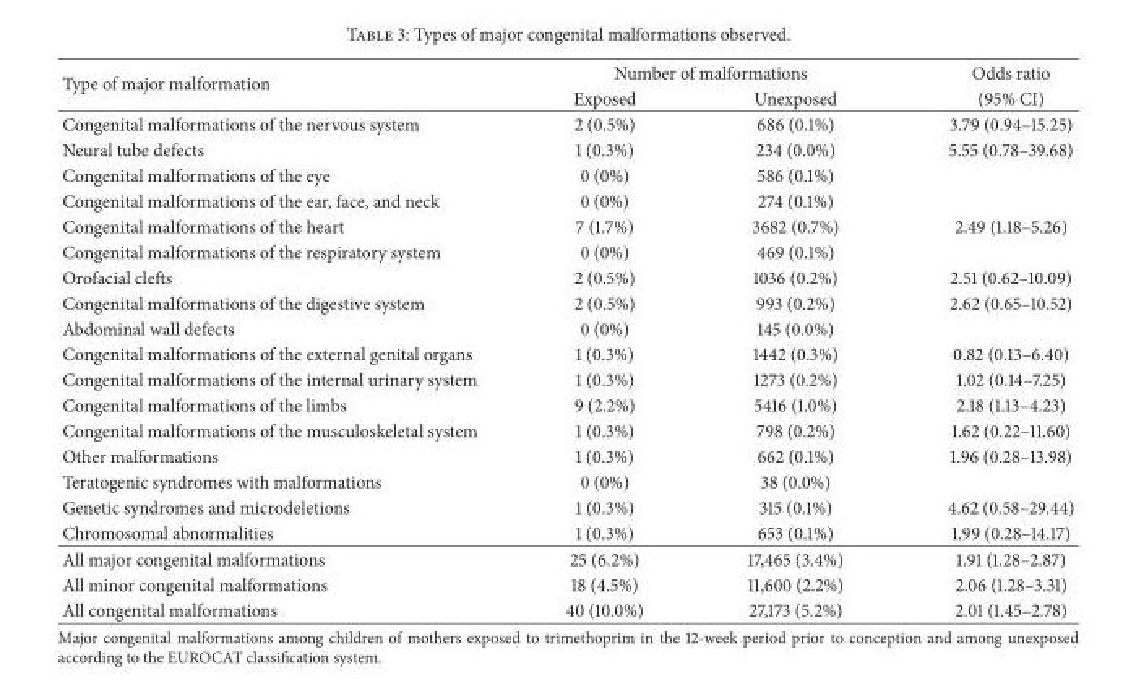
<table><thead><tr><td rowspan="2">Type of major malformation</td><td colspan="2">Number of malformations</td><td rowspan="2">Odds ratio (95% CI)</td></tr><tr><td>Exposed</td><td>Unexposed</td></tr></thead><tbody><tr><td>Congenital malformations of the nervous system</td><td>2 (0.5%)</td><td>686 (0.1%)</td><td>3.79 (0.94–15.25)</td></tr><tr><td>Neural tube defects</td><td>1 (0.3%)</td><td>234 (0.0%)</td><td>5.55 (0.78–39.68)</td></tr><tr><td>Congenital malformations of the eye</td><td>0 (0%)</td><td>586 (0.1%)</td><td></td></tr><tr><td>Congenital malformations of the ear, face, and neck</td><td>0 (0%)</td><td>274 (0.1%)</td><td></td></tr><tr><td>Congenital malformations of the heart</td><td>7 (1.7%)</td><td>3682 (0.7%)</td><td>2.49 (1.18–5.26)</td></tr><tr><td>Congenital malformations of the respiratory system</td><td>0 (0%)</td><td>469 (0.1%)</td><td></td></tr><tr><td>Orofacial clefts</td><td>2 (0.5%)</td><td>1036 (0.2%)</td><td>2.51 (0.62–10.09)</td></tr><tr><td>Congenital malformations of the digestive system</td><td>2 (0.5%)</td><td>993 (0.2%)</td><td>2.62 (0.65–10.52)</td></tr><tr><td>Abdominal wall defects</td><td>0 (0%)</td><td>145 (0.0%)</td><td></td></tr><tr><td>Congenital malformations of the external genital organs</td><td>1 (0.3%)</td><td>1442 (0.3%)</td><td>0.82 (0.13–6.40)</td></tr><tr><td>Congenital malformations of the internal urinary system</td><td>1 (0.3%)</td><td>1273 (0.2%)</td><td>1.02 (0.14–7.25)</td></tr><tr><td>Congenital malformations of the limbs</td><td>9 (2.2%)</td><td>5416 (1.0%)</td><td>2.18 (1.13–4.23)</td></tr><tr><td>Congenital malformations of the musculoskeletal system</td><td>1 (0.3%)</td><td>798 (0.2%)</td><td>1.62 (0.22–11.60)</td></tr><tr><td>Other malformations</td><td>1 (0.3%)</td><td>662 (0.1%)</td><td>1.96 (0.28–13.98)</td></tr><tr><td>Teratogenic syndromes with malformations</td><td>0 (0%)</td><td>38 (0.0%)</td><td></td></tr><tr><td>Genetic syndromes and microdeletions</td><td>1 (0.3%)</td><td>315 (0.1%)</td><td>4.62 (0.58–29.44)</td></tr><tr><td>Chromosomal abnormalities</td><td>1 (0.3%)</td><td>653 (0.1%)</td><td>1.99 (0.28–14.17)</td></tr><tr><td>All major congenital malformations</td><td>25 (6.2%)</td><td>17,465 (3.4%)</td><td>1.91 (1.28–2.87)</td></tr><tr><td>All minor congenital malformations</td><td>18 (4.5%)</td><td>11,600 (2.2%)</td><td>2.06 (1.28–3.31)</td></tr><tr><td>All congenital malformations</td><td>40 (10.0%)</td><td>27,173 (5.2%)</td><td>2.01 (1.45–2.78)</td></tr></tbody></table>